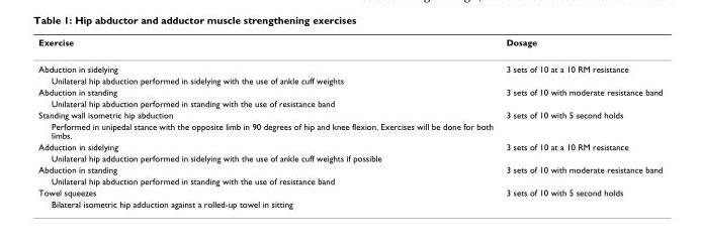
<table><thead><tr><td>Exercise</td><td>Dosage</td></tr></thead><tbody><tr><td>Abduction in sidelying</td><td>3 sets of 10 at a 10 RM resistance</td></tr><tr><td colspan="2">Unilateral hip abduction performed in sidelying with the use of ankle cuff weights</td></tr><tr><td>Abduction in standing</td><td>3 sets of 10 with moderate resistance band</td></tr><tr><td colspan="2">Unilateral hip abduction performed in standing with the use of resistance band</td></tr><tr><td>Standing wall isometric hip abduction</td><td>3 sets of 10 with 5 second holds</td></tr><tr><td colspan="2">Performed in unipedal stance with the opposite limb in 90 degrees of hip and knee flexion. Exercises will be done for both limbs.</td></tr><tr><td>Adduction in sidelying</td><td>3 sets of 10 at a 10 RM resistance</td></tr><tr><td colspan="2">Unilateral hip adduction performed in sidelying with the use of ankle cuff weights if possible</td></tr><tr><td>Abduction in standing</td><td>3 sets of 10 with moderate resistance band</td></tr><tr><td colspan="2">Unilateral hip abduction performed in standing with the use of resistance band</td></tr><tr><td>Towel squeezes</td><td>3 sets of 10 with 5 second holds</td></tr><tr><td>Bilateral isometric hip adduction against a rolled-up towel in sitting</td><td></td></tr></tbody></table>